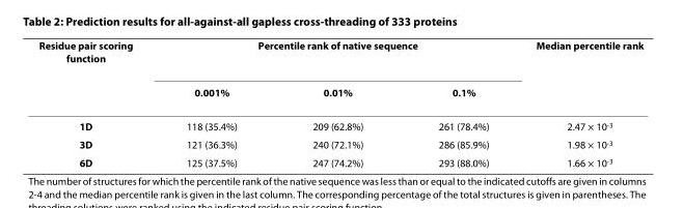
<table><thead><tr><td rowspan="2">Residue pair scoring function</td><td colspan="3">Percentile rank of native sequence</td><td rowspan="2">Median percentile rank</td></tr><tr><td>0.001%</td><td>0.01%</td><td>0.1%</td></tr></thead><tbody><tr><td>1D</td><td>118 (35.4%)</td><td>209 (62.8%)</td><td>261 (78.4%)</td><td>2.47 × 10<sup>-3</sup></td></tr><tr><td>3D</td><td>121 (36.3%)</td><td>240 (72.1%)</td><td>286 (85.9%)</td><td>1.98 × 10<sup>-3</sup></td></tr><tr><td>6D</td><td>125 (37.5%)</td><td>247 (74.2%)</td><td>293 (88.0%)</td><td>1.66 × 10<sup>-3</sup></td></tr></tbody></table>